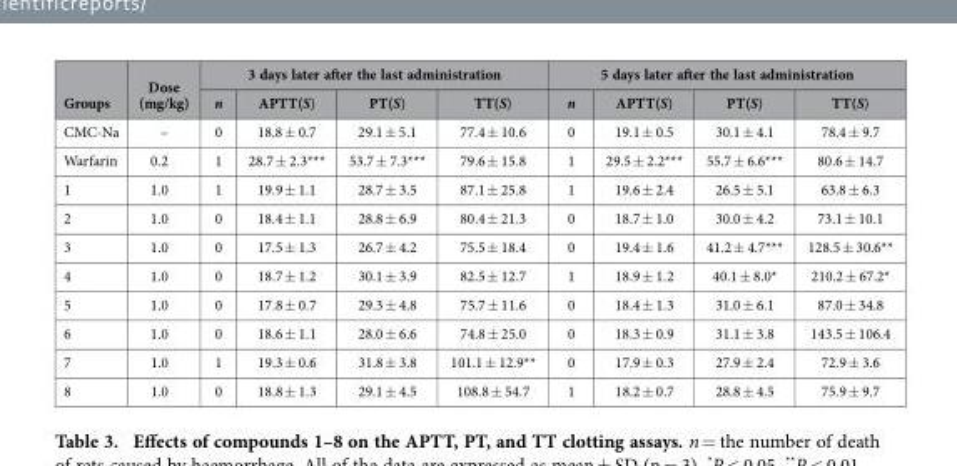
<table><thead><tr><td rowspan="2">Groups</td><td rowspan="2">Dose (mg/kg)</td><td colspan="4">3 days later after the last administration</td><td colspan="4">5 days later after the last administration</td></tr><tr><td>n</td><td>APTT(S)</td><td>PT(S)</td><td>TT(S)</td><td>n</td><td>APTT(S)</td><td>PT(S)</td><td>TT(S)</td></tr></thead><tbody><tr><td>CMC-Na</td><td>–</td><td>0</td><td>18.8 ± 0.7</td><td>29.1 ± 5.1</td><td>77.4 ± 10.6</td><td>0</td><td>19.1 ± 0.5</td><td>30.1 ± 4.1</td><td>78.4 ± 9.7</td></tr><tr><td>Warfarin</td><td>0.2</td><td>1</td><td>28.7 ± 2.3***</td><td>53.7 ± 7.3***</td><td>79.6 ± 15.8</td><td>1</td><td>29.5 ± 2.2***</td><td>55.7 ± 6.6***</td><td>80.6 ± 14.7</td></tr><tr><td>1</td><td>1.0</td><td>1</td><td>19.9 ± 1.1</td><td>28.7 ± 3.5</td><td>87.1 ± 25.8</td><td>1</td><td>19.6 ± 2.4</td><td>26.5 ± 5.1</td><td>63.8 ± 6.3</td></tr><tr><td>2</td><td>1.0</td><td>0</td><td>18.4 ± 1.1</td><td>28.8 ± 6.9</td><td>80.4 ± 21.3</td><td>0</td><td>18.7 ± 1.0</td><td>30.0 ± 4.2</td><td>73.1 ± 10.1</td></tr><tr><td>3</td><td>1.0</td><td>0</td><td>17.5 ± 1.3</td><td>26.7 ± 4.2</td><td>75.5 ± 18.4</td><td>0</td><td>19.4 ± 1.6</td><td>41.2 ± 4.7***</td><td>128.5 ± 30.6**</td></tr><tr><td>4</td><td>1.0</td><td>0</td><td>18.7 ± 1.2</td><td>30.1 ± 3.9</td><td>82.5 ± 12.7</td><td>1</td><td>18.9 ± 1.2</td><td>40.1 ± 8.0*</td><td>210.2 ± 67.2*</td></tr><tr><td>5</td><td>1.0</td><td>0</td><td>17.8 ± 0.7</td><td>29.3 ± 4.8</td><td>75.7 ± 11.6</td><td>0</td><td>18.4 ± 1.3</td><td>31.0 ± 6.1</td><td>87.0 ± 34.8</td></tr><tr><td>6</td><td>1.0</td><td>0</td><td>18.6 ± 1.1</td><td>28.0 ± 6.6</td><td>74.8 ± 25.0</td><td>0</td><td>18.3 ± 0.9</td><td>31.1 ± 3.8</td><td>143.5 ± 106.4</td></tr><tr><td>7</td><td>1.0</td><td>1</td><td>19.3 ± 0.6</td><td>31.8 ± 3.8</td><td>101.1 ± 12.9**</td><td>0</td><td>17.9 ± 0.3</td><td>27.9 ± 2.4</td><td>72.9 ± 3.6</td></tr><tr><td>8</td><td>1.0</td><td>0</td><td>18.8 ± 1.3</td><td>29.1 ± 4.5</td><td>108.8 ± 54.7</td><td>1</td><td>18.2 ± 0.7</td><td>28.8 ± 4.5</td><td>75.9 ± 9.7</td></tr></tbody></table>